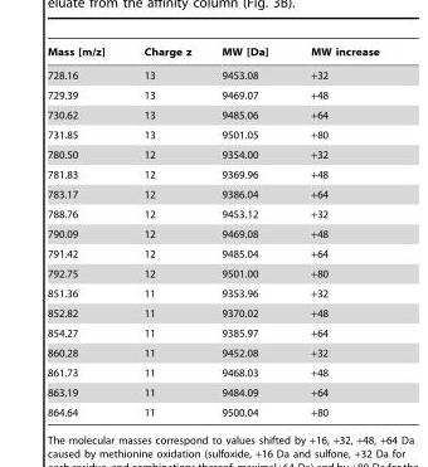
<table><thead><tr><td>Mass [m/z]</td><td>Charge z</td><td>MW [Da]</td><td>MW increase</td></tr></thead><tbody><tr><td>728.16</td><td>13</td><td>9453.08</td><td>+32</td></tr><tr><td>729.39</td><td>13</td><td>9469.07</td><td>+48</td></tr><tr><td>730.62</td><td>13</td><td>9485.06</td><td>+64</td></tr><tr><td>731.85</td><td>13</td><td>9501.05</td><td>+80</td></tr><tr><td>780.50</td><td>12</td><td>9354.00</td><td>+32</td></tr><tr><td>781.83</td><td>12</td><td>9369.96</td><td>+48</td></tr><tr><td>783.17</td><td>12</td><td>9386.04</td><td>+64</td></tr><tr><td>788.76</td><td>12</td><td>9453.12</td><td>+32</td></tr><tr><td>790.09</td><td>12</td><td>9469.08</td><td>+48</td></tr><tr><td>791.42</td><td>12</td><td>9485.04</td><td>+64</td></tr><tr><td>792.75</td><td>12</td><td>9501.00</td><td>+80</td></tr><tr><td>851.36</td><td>11</td><td>9353.96</td><td>+32</td></tr><tr><td>852.82</td><td>11</td><td>9370.02</td><td>+48</td></tr><tr><td>854.27</td><td>11</td><td>9385.97</td><td>+64</td></tr><tr><td>860.28</td><td>11</td><td>9452.08</td><td>+32</td></tr><tr><td>861.73</td><td>11</td><td>9468.03</td><td>+48</td></tr><tr><td>863.19</td><td>11</td><td>9484.09</td><td>+64</td></tr><tr><td>864.64</td><td>11</td><td>9500.04</td><td>+80</td></tr></tbody></table>